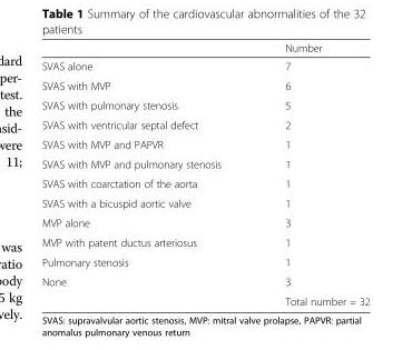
<table><thead><tr><td></td><td>Number</td></tr></thead><tbody><tr><td>SVAS alone</td><td>7</td></tr><tr><td>SVAS with MVP</td><td>6</td></tr><tr><td>SVAS with pulmonary stenosis</td><td>5</td></tr><tr><td>SVAS with ventricular septal defect</td><td>2</td></tr><tr><td>SVAS with MVP and PAPVR</td><td>1</td></tr><tr><td>SVAS with MVP and pulmonary stenosis</td><td>1</td></tr><tr><td>SVAS with coarctation of the aorta</td><td>1</td></tr><tr><td>SVAS with a bicuspid aortic valve</td><td>1</td></tr><tr><td>MVP alone</td><td>3</td></tr><tr><td>MVP with patent ductus arteriosus</td><td>1</td></tr><tr><td>Pulmonary stenosis</td><td>1</td></tr><tr><td rowspan="2">None</td><td>3</td></tr><tr><td>Total number = 32</td></tr></tbody></table>